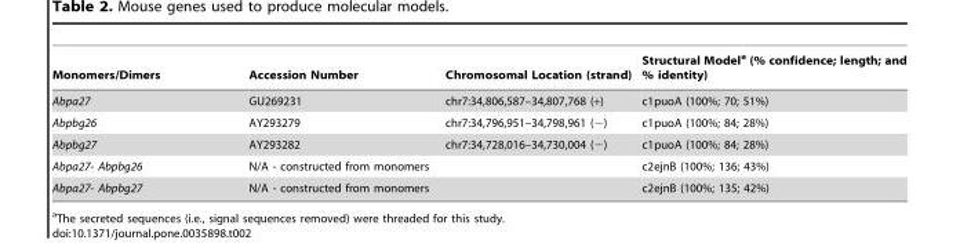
<table><thead><tr><td>Monomers/Dimers</td><td>Accession Number</td><td>Chromosomal Location (strand)</td><td>Structural Model<sup>a</sup> (% confidence; length; and % identity)</td></tr></thead><tbody><tr><td>Abpa27</td><td>GU269231</td><td>chr7:34,806,587–34,807,768 (+)</td><td>c1puoA (100%; 70; 51%)</td></tr><tr><td>Abpbg26</td><td>AY293279</td><td>chr7:34,796,951–34,798,961 (−)</td><td>c1puoA (100%; 84; 28%)</td></tr><tr><td>Abpbg27</td><td>AY293282</td><td>chr7:34,728,016–34,730,004 (−)</td><td>c1puoA (100%; 84; 28%)</td></tr><tr><td>Abpa27- Abpbg26</td><td colspan="2">N/A - constructed from monomers</td><td>c2ejnB (100%; 136; 43%)</td></tr><tr><td>Abpa27- Abpbg27</td><td colspan="2">N/A - constructed from monomers</td><td>c2ejnB (100%; 135; 42%)</td></tr></tbody></table>